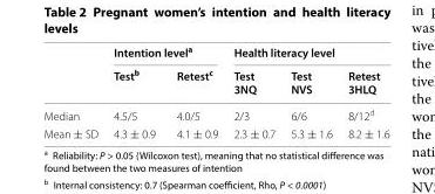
<table><thead><tr><td rowspan="2"></td><td colspan="2">Intention level<sup>a</sup></td><td colspan="3">Health literacy level</td></tr><tr><td>Test<sup>b</sup></td><td>Retest<sup>c</sup></td><td>Test 3NQ</td><td>Test NVS</td><td>Retest 3HLQ</td></tr></thead><tbody><tr><td>Median</td><td>4.5/5</td><td>4.0/5</td><td>2/3</td><td>6/6</td><td>8/12<sup>d</sup></td></tr><tr><td>Mean ± SD</td><td>4.3 ± 0.9</td><td>4.1 ± 0.9</td><td>2.3 ± 0.7</td><td>5.3 ± 1.6</td><td>8.2 ± 1.6</td></tr></tbody></table>